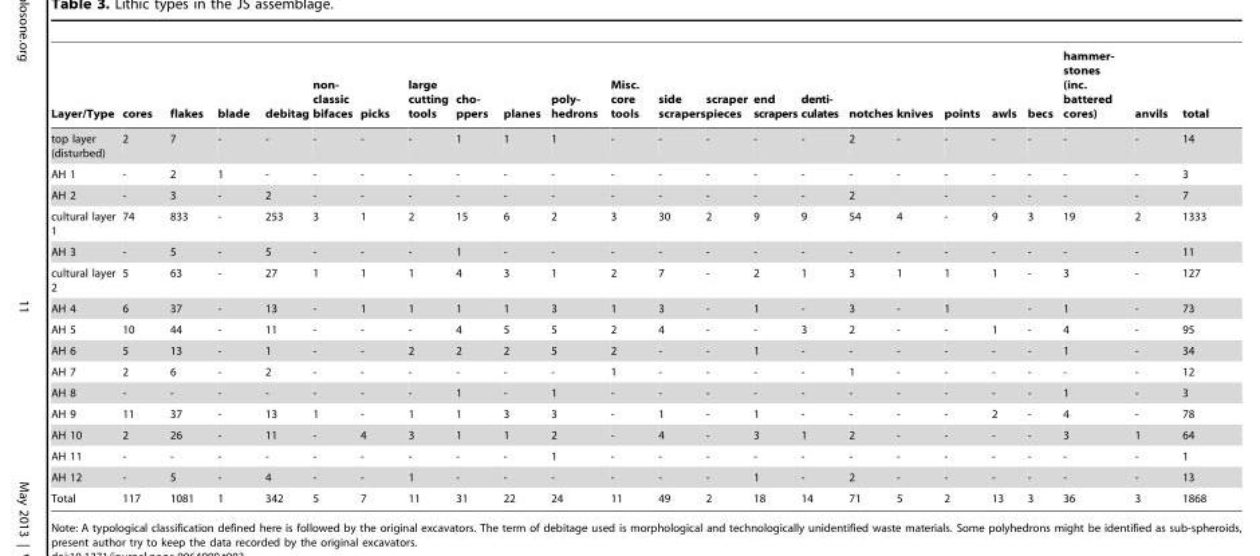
<table><thead><tr><td>Layer/Type</td><td>cores</td><td>flakes</td><td>blade</td><td>debitag</td><td>non- classic bifaces</td><td>picks</td><td>large cutting tools</td><td>cho- ppers</td><td>planes</td><td>poly- hedrons</td><td>Misc. core tools</td><td>side scrapers</td><td>scraper pieces</td><td>end scrapers</td><td>denti- culates</td><td>notches</td><td>knives</td><td>points</td><td>awls</td><td>becs</td><td>hammer- stones (inc. battered cores)</td><td>anvils</td><td>total</td></tr></thead><tbody><tr><td>top layer (disturbed)</td><td>2</td><td>7</td><td>-</td><td>-</td><td>-</td><td>-</td><td>-</td><td>1</td><td>1</td><td>1</td><td>-</td><td>-</td><td>-</td><td>-</td><td>-</td><td>2</td><td>-</td><td>-</td><td>-</td><td>-</td><td>-</td><td>-</td><td>14</td></tr><tr><td>AH 1</td><td>-</td><td>2</td><td>1</td><td>-</td><td>-</td><td>-</td><td>-</td><td>-</td><td>-</td><td>-</td><td>-</td><td>-</td><td>-</td><td>-</td><td>-</td><td>-</td><td>-</td><td>-</td><td>-</td><td>-</td><td>-</td><td>-</td><td>3</td></tr><tr><td>AH 2</td><td>-</td><td>3</td><td>-</td><td>2</td><td>-</td><td>-</td><td>-</td><td>-</td><td>-</td><td>-</td><td>-</td><td>-</td><td>-</td><td>-</td><td>-</td><td>2</td><td></td><td>-</td><td>-</td><td>-</td><td>-</td><td>-</td><td>7</td></tr><tr><td>cultural layer 1</td><td>74</td><td>833</td><td>-</td><td>253</td><td>3</td><td>1</td><td>2</td><td>15</td><td>6</td><td>2</td><td>3</td><td>30</td><td>2</td><td>9</td><td>9</td><td>54</td><td>4</td><td>-</td><td>9</td><td>3</td><td>19</td><td>2</td><td>1333</td></tr><tr><td>AH 3</td><td>-</td><td>5</td><td>-</td><td>5</td><td>-</td><td>-</td><td>-</td><td>1</td><td>-</td><td>-</td><td>-</td><td>-</td><td>-</td><td>-</td><td>-</td><td>-</td><td>-</td><td>-</td><td>-</td><td>-</td><td>-</td><td>-</td><td>11</td></tr><tr><td>cultural layer 2</td><td>5</td><td>63</td><td>-</td><td>27</td><td>1</td><td>1</td><td>1</td><td>4</td><td>3</td><td>1</td><td>2</td><td>7</td><td>-</td><td>2</td><td>1</td><td>3</td><td>1</td><td>1</td><td>1</td><td>-</td><td>3</td><td>-</td><td>127</td></tr><tr><td>AH 4</td><td>6</td><td>37</td><td>-</td><td>13</td><td>-</td><td>1</td><td>1</td><td>1</td><td>1</td><td>3</td><td>1</td><td>3</td><td>-</td><td>1</td><td>-</td><td>3</td><td>-</td><td>1</td><td></td><td>-</td><td>1</td><td>-</td><td>73</td></tr><tr><td>AH 5</td><td>10</td><td>44</td><td>-</td><td>11</td><td>-</td><td>-</td><td>-</td><td>4</td><td>5</td><td>5</td><td>2</td><td>4</td><td>-</td><td>-</td><td>3</td><td>2</td><td>-</td><td>-</td><td>1</td><td>-</td><td>4</td><td>-</td><td>95</td></tr><tr><td>AH 6</td><td>5</td><td>13</td><td>-</td><td>1</td><td>-</td><td>-</td><td>2</td><td>2</td><td>2</td><td>5</td><td>2</td><td>-</td><td>-</td><td>1</td><td>-</td><td>-</td><td>-</td><td>-</td><td>-</td><td>-</td><td>1</td><td>-</td><td>34</td></tr><tr><td>AH 7</td><td>2</td><td>6</td><td>-</td><td>2</td><td>-</td><td>-</td><td>-</td><td>-</td><td>-</td><td>-</td><td>1</td><td>-</td><td>-</td><td>-</td><td>-</td><td>1</td><td>-</td><td>-</td><td>-</td><td>-</td><td>-</td><td>-</td><td>12</td></tr><tr><td>AH 8</td><td>-</td><td>-</td><td>-</td><td>-</td><td>-</td><td>-</td><td>-</td><td>1</td><td>-</td><td>1</td><td>-</td><td>-</td><td>-</td><td>-</td><td>-</td><td>-</td><td>-</td><td>-</td><td>-</td><td>-</td><td>1</td><td>-</td><td>3</td></tr><tr><td>AH 9</td><td>11</td><td>37</td><td>-</td><td>13</td><td>1</td><td>-</td><td>1</td><td>1</td><td>3</td><td>3</td><td>-</td><td>1</td><td>-</td><td>1</td><td>-</td><td>-</td><td>-</td><td>-</td><td>2</td><td>-</td><td>4</td><td>-</td><td>78</td></tr><tr><td>AH 10</td><td>2</td><td>26</td><td>-</td><td>11</td><td>-</td><td>4</td><td>3</td><td>1</td><td>1</td><td>2</td><td>-</td><td>4</td><td>-</td><td>3</td><td>1</td><td>2</td><td>-</td><td>-</td><td>-</td><td>-</td><td>3</td><td>1</td><td>64</td></tr><tr><td>AH 11</td><td>-</td><td>-</td><td>-</td><td>-</td><td>-</td><td>-</td><td>-</td><td>-</td><td>-</td><td>1</td><td>-</td><td>-</td><td>-</td><td>-</td><td>-</td><td>-</td><td>-</td><td>-</td><td>-</td><td>-</td><td>-</td><td>-</td><td>1</td></tr><tr><td>AH 12</td><td>-</td><td>5</td><td>-</td><td>4</td><td>-</td><td>-</td><td>1</td><td>-</td><td>-</td><td>-</td><td>-</td><td>-</td><td>-</td><td>1</td><td>-</td><td>2</td><td>-</td><td>-</td><td>-</td><td>-</td><td>-</td><td>-</td><td>13</td></tr><tr><td>Total</td><td>117</td><td>1081</td><td>1</td><td>342</td><td>5</td><td>7</td><td>11</td><td>31</td><td>22</td><td>24</td><td>11</td><td>49</td><td>2</td><td>18</td><td>14</td><td>71</td><td>5</td><td>2</td><td>13</td><td>3</td><td>36</td><td>3</td><td>1868</td></tr></tbody></table>